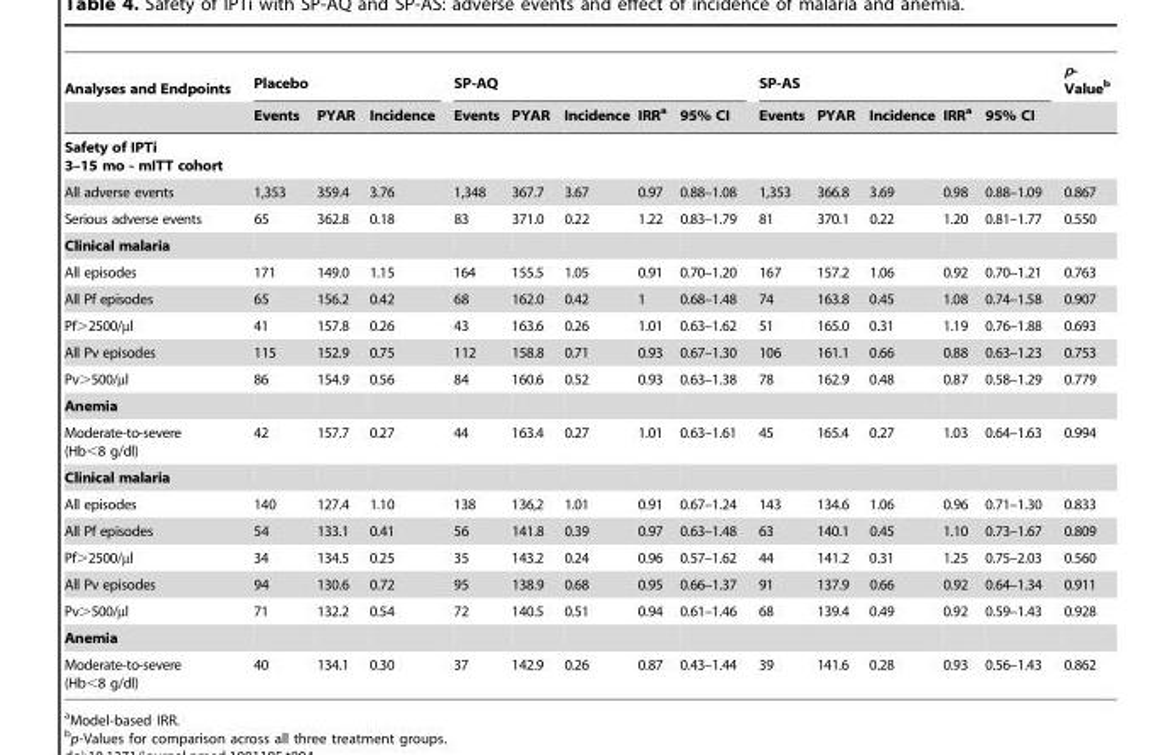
<table><thead><tr><td rowspan="2">Analyses and Endpoints</td><td colspan="3">Placebo</td><td colspan="5">SP-AQ</td><td colspan="5">SP-AS</td><td rowspan="2">p- Value<sup>b</sup></td></tr><tr><td>Events</td><td>PYAR</td><td>Incidence</td><td>Events</td><td>PYAR</td><td>Incidence</td><td>IRR<sup>a</sup></td><td>95% CI</td><td>Events</td><td>PYAR</td><td>Incidence</td><td>IRR<sup>a</sup></td><td>95% CI</td></tr></thead><tbody><tr><td colspan="15">Safety of IPTi 3–15 mo - mITT cohort</td></tr><tr><td>All adverse events</td><td>1,353</td><td>359.4</td><td>3.76</td><td>1,348</td><td>367.7</td><td>3.67</td><td>0.97</td><td>0.88–1.08</td><td>1,353</td><td>366.8</td><td>3.69</td><td>0.98</td><td>0.88–1.09</td><td>0.867</td></tr><tr><td>Serious adverse events</td><td>65</td><td>362.8</td><td>0.18</td><td>83</td><td>371.0</td><td>0.22</td><td>1.22</td><td>0.83–1.79</td><td>81</td><td>370.1</td><td>0.22</td><td>1.20</td><td>0.81–1.77</td><td>0.550</td></tr><tr><td colspan="15">Clinical malaria</td></tr><tr><td>All episodes</td><td>171</td><td>149.0</td><td>1.15</td><td>164</td><td>155.5</td><td>1.05</td><td>0.91</td><td>0.70–1.20</td><td>167</td><td>157.2</td><td>1.06</td><td>0.92</td><td>0.70–1.21</td><td>0.763</td></tr><tr><td>All Pf episodes</td><td>65</td><td>156.2</td><td>0.42</td><td>68</td><td>162.0</td><td>0.42</td><td>1</td><td>0.68–1.48</td><td>74</td><td>163.8</td><td>0.45</td><td>1.08</td><td>0.74–1.58</td><td>0.907</td></tr><tr><td>Pf&gt;2500/µl</td><td>41</td><td>157.8</td><td>0.26</td><td>43</td><td>163.6</td><td>0.26</td><td>1.01</td><td>0.63–1.62</td><td>51</td><td>165.0</td><td>0.31</td><td>1.19</td><td>0.76–1.88</td><td>0.693</td></tr><tr><td>All Pv episodes</td><td>115</td><td>152.9</td><td>0.75</td><td>112</td><td>158.8</td><td>0.71</td><td>0.93</td><td>0.67–1.30</td><td>106</td><td>161.1</td><td>0.66</td><td>0.88</td><td>0.63–1.23</td><td>0.753</td></tr><tr><td>Pv&gt;500/µl</td><td>86</td><td>154.9</td><td>0.56</td><td>84</td><td>160.6</td><td>0.52</td><td>0.93</td><td>0.63–1.38</td><td>78</td><td>162.9</td><td>0.48</td><td>0.87</td><td>0.58–1.29</td><td>0.779</td></tr><tr><td colspan="15">Anemia</td></tr><tr><td>Moderate-to-severe (Hb&lt;8 g/dl)</td><td>42</td><td>157.7</td><td>0.27</td><td>44</td><td>163.4</td><td>0.27</td><td>1.01</td><td>0.63–1.61</td><td>45</td><td>165.4</td><td>0.27</td><td>1.03</td><td>0.64–1.63</td><td>0.994</td></tr><tr><td colspan="15">Clinical malaria</td></tr><tr><td>All episodes</td><td>140</td><td>127.4</td><td>1.10</td><td>138</td><td>136,2</td><td>1.01</td><td>0.91</td><td>0.67–1.24</td><td>143</td><td>134.6</td><td>1.06</td><td>0.96</td><td>0.71–1.30</td><td>0.833</td></tr><tr><td>All Pf episodes</td><td>54</td><td>133.1</td><td>0.41</td><td>56</td><td>141.8</td><td>0.39</td><td>0.97</td><td>0.63–1.48</td><td>63</td><td>140.1</td><td>0.45</td><td>1.10</td><td>0.73–1.67</td><td>0.809</td></tr><tr><td>Pf&gt;2500/µl</td><td>34</td><td>134.5</td><td>0.25</td><td>35</td><td>143.2</td><td>0.24</td><td>0.96</td><td>0.57–1.62</td><td>44</td><td>141.2</td><td>0.31</td><td>1.25</td><td>0.75–2.03</td><td>0.560</td></tr><tr><td>All Pv episodes</td><td>94</td><td>130.6</td><td>0.72</td><td>95</td><td>138.9</td><td>0.68</td><td>0.95</td><td>0.66–1.37</td><td>91</td><td>137.9</td><td>0.66</td><td>0.92</td><td>0.64–1.34</td><td>0.911</td></tr><tr><td>Pv&gt;500/µl</td><td>71</td><td>132.2</td><td>0.54</td><td>72</td><td>140.5</td><td>0.51</td><td>0.94</td><td>0.61–1.46</td><td>68</td><td>139.4</td><td>0.49</td><td>0.92</td><td>0.59–1.43</td><td>0.928</td></tr><tr><td colspan="15">Anemia</td></tr><tr><td>Moderate-to-severe (Hb&lt;8 g/dl)</td><td>40</td><td>134.1</td><td>0.30</td><td>37</td><td>142.9</td><td>0.26</td><td>0.87</td><td>0.43–1.44</td><td>39</td><td>141.6</td><td>0.28</td><td>0.93</td><td>0.56–1.43</td><td>0.862</td></tr></tbody></table>